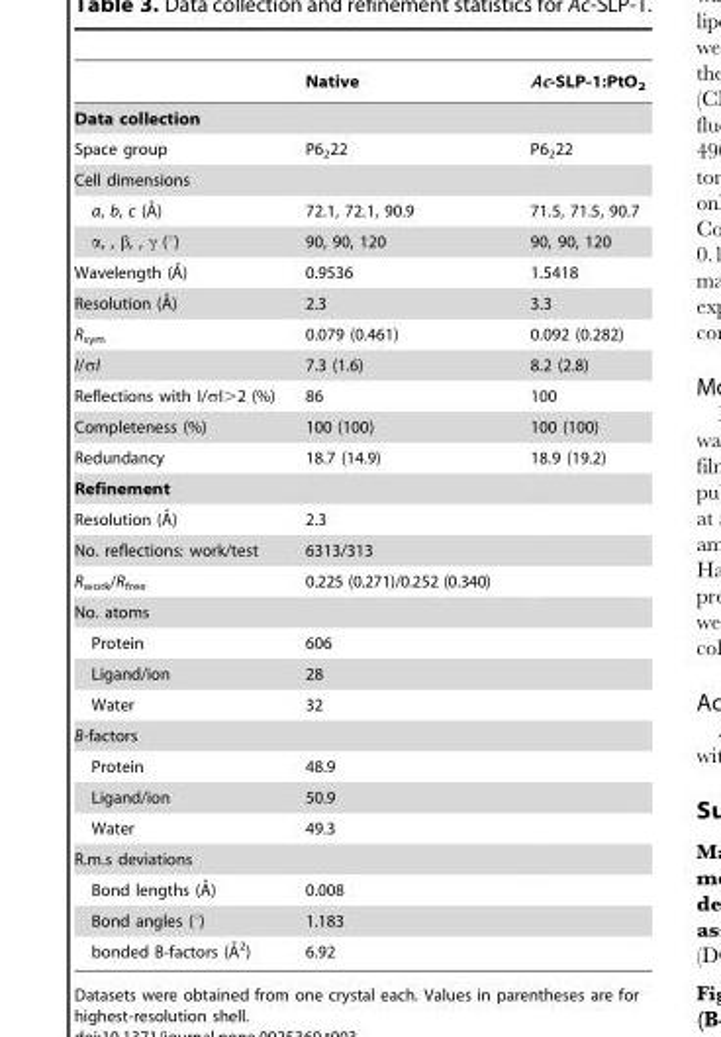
<table><thead><tr><td></td><td>Native</td><td>Ac-SLP-1:PtO<sub>2</sub></td></tr></thead><tbody><tr><td colspan="3">Data collection</td></tr><tr><td>Space group</td><td>P6<sub>2</sub>22</td><td>P6<sub>2</sub>22</td></tr><tr><td colspan="3">Cell dimensions</td></tr><tr><td>a, b, c (A˚)</td><td>72.1, 72.1, 90.9</td><td>71.5, 71.5, 90.7</td></tr><tr><td>α, , β, , γ (°)</td><td>90, 90, 120</td><td>90, 90, 120</td></tr><tr><td>Wavelength (A˚)</td><td>0.9536</td><td>1.5418</td></tr><tr><td>Resolution (A˚)</td><td>2.3</td><td>3.3</td></tr><tr><td>R<sub>sym</sub></td><td>0.079 (0.461)</td><td>0.092 (0.282)</td></tr><tr><td>I/σI</td><td>7.3 (1.6)</td><td>8.2 (2.8)</td></tr><tr><td>Reflections with I/σI&gt;2 (%)</td><td>86</td><td>100</td></tr><tr><td>Completeness (%)</td><td>100 (100)</td><td>100 (100)</td></tr><tr><td>Redundancy</td><td>18.7 (14.9)</td><td>18.9 (19.2)</td></tr><tr><td colspan="3">Refinement</td></tr><tr><td>Resolution (A˚)</td><td>2.3</td><td></td></tr><tr><td>No. reflections: work/test</td><td>6313/313</td><td></td></tr><tr><td>R<sub>work</sub>/R<sub>free</sub></td><td>0.225 (0.271)/0.252 (0.340)</td><td></td></tr><tr><td colspan="3">No. atoms</td></tr><tr><td>Protein</td><td>606</td><td></td></tr><tr><td>Ligand/ion</td><td>28</td><td></td></tr><tr><td>Water</td><td>32</td><td></td></tr><tr><td colspan="3">B-factors</td></tr><tr><td>Protein</td><td>48.9</td><td></td></tr><tr><td>Ligand/ion</td><td>50.9</td><td></td></tr><tr><td>Water</td><td>49.3</td><td></td></tr><tr><td colspan="3">R.m.s deviations</td></tr><tr><td>Bond lengths (A˚)</td><td>0.008</td><td></td></tr><tr><td>Bond angles (°)</td><td>1.183</td><td></td></tr><tr><td>bonded B-factors (A˚ 2)</td><td>6.92</td><td></td></tr></tbody></table>